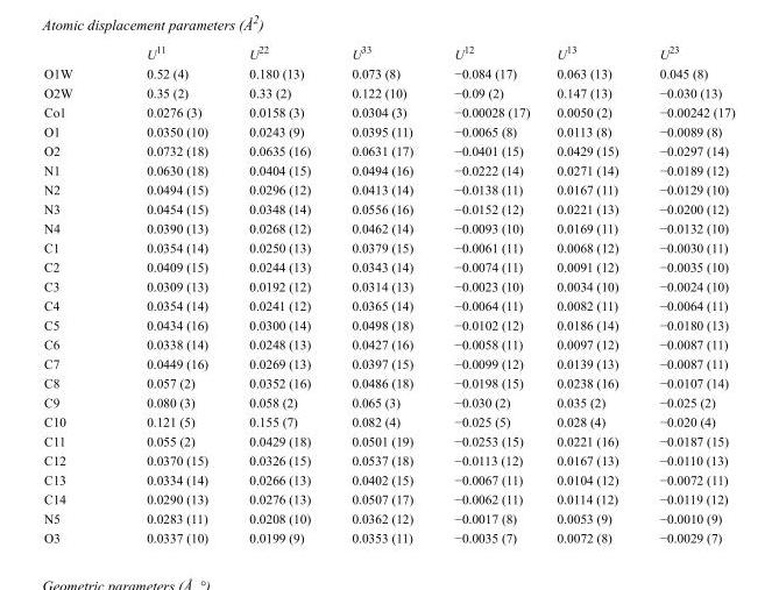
<table><thead><tr><td></td><td>U<sup>11</sup></td><td>U<sup>22</sup></td><td>U<sup>33</sup></td><td>U<sup>12</sup></td><td>U<sup>13</sup></td><td>U<sup>23</sup></td></tr></thead><tbody><tr><td>O1W</td><td>0.52 (4)</td><td>0.180 (13)</td><td>0.073 (8)</td><td>−0.084 (17)</td><td>0.063 (13)</td><td>0.045 (8)</td></tr><tr><td>O2W</td><td>0.35 (2)</td><td>0.33 (2)</td><td>0.122 (10)</td><td>−0.09 (2)</td><td>0.147 (13)</td><td>−0.030 (13)</td></tr><tr><td>Co1</td><td>0.0276 (3)</td><td>0.0158 (3)</td><td>0.0304 (3)</td><td>−0.00028 (17)</td><td>0.0050 (2)</td><td>−0.00242 (17)</td></tr><tr><td>O1</td><td>0.0350 (10)</td><td>0.0243 (9)</td><td>0.0395 (11)</td><td>−0.0065 (8)</td><td>0.0113 (8)</td><td>−0.0089 (8)</td></tr><tr><td>O2</td><td>0.0732 (18)</td><td>0.0635 (16)</td><td>0.0631 (17)</td><td>−0.0401 (15)</td><td>0.0429 (15)</td><td>−0.0297 (14)</td></tr><tr><td>N1</td><td>0.0630 (18)</td><td>0.0404 (15)</td><td>0.0494 (16)</td><td>−0.0222 (14)</td><td>0.0271 (14)</td><td>−0.0189 (12)</td></tr><tr><td>N2</td><td>0.0494 (15)</td><td>0.0296 (12)</td><td>0.0413 (14)</td><td>−0.0138 (11)</td><td>0.0167 (11)</td><td>−0.0129 (10)</td></tr><tr><td>N3</td><td>0.0454 (15)</td><td>0.0348 (14)</td><td>0.0556 (16)</td><td>−0.0152 (12)</td><td>0.0221 (13)</td><td>−0.0200 (12)</td></tr><tr><td>N4</td><td>0.0390 (13)</td><td>0.0268 (12)</td><td>0.0462 (14)</td><td>−0.0093 (10)</td><td>0.0169 (11)</td><td>−0.0132 (10)</td></tr><tr><td>C1</td><td>0.0354 (14)</td><td>0.0250 (13)</td><td>0.0379 (15)</td><td>−0.0061 (11)</td><td>0.0068 (12)</td><td>−0.0030 (11)</td></tr><tr><td>C2</td><td>0.0409 (15)</td><td>0.0244 (13)</td><td>0.0343 (14)</td><td>−0.0074 (11)</td><td>0.0091 (12)</td><td>−0.0035 (10)</td></tr><tr><td>C3</td><td>0.0309 (13)</td><td>0.0192 (12)</td><td>0.0314 (13)</td><td>−0.0023 (10)</td><td>0.0034 (10)</td><td>−0.0024 (10)</td></tr><tr><td>C4</td><td>0.0354 (14)</td><td>0.0241 (12)</td><td>0.0365 (14)</td><td>−0.0064 (11)</td><td>0.0082 (11)</td><td>−0.0064 (11)</td></tr><tr><td>C5</td><td>0.0434 (16)</td><td>0.0300 (14)</td><td>0.0498 (18)</td><td>−0.0102 (12)</td><td>0.0186 (14)</td><td>−0.0180 (13)</td></tr><tr><td>C6</td><td>0.0338 (14)</td><td>0.0248 (13)</td><td>0.0427 (16)</td><td>−0.0058 (11)</td><td>0.0097 (12)</td><td>−0.0087 (11)</td></tr><tr><td>C7</td><td>0.0449 (16)</td><td>0.0269 (13)</td><td>0.0397 (15)</td><td>−0.0099 (12)</td><td>0.0139 (13)</td><td>−0.0087 (11)</td></tr><tr><td>C8</td><td>0.057 (2)</td><td>0.0352 (16)</td><td>0.0486 (18)</td><td>−0.0198 (15)</td><td>0.0238 (16)</td><td>−0.0107 (14)</td></tr><tr><td>C9</td><td>0.080 (3)</td><td>0.058 (2)</td><td>0.065 (3)</td><td>−0.030 (2)</td><td>0.035 (2)</td><td>−0.025 (2)</td></tr><tr><td>C10</td><td>0.121 (5)</td><td>0.155 (7)</td><td>0.082 (4)</td><td>−0.025 (5)</td><td>0.028 (4)</td><td>−0.020 (4)</td></tr><tr><td>C11</td><td>0.055 (2)</td><td>0.0429 (18)</td><td>0.0501 (19)</td><td>−0.0253 (15)</td><td>0.0221 (16)</td><td>−0.0187 (15)</td></tr><tr><td>C12</td><td>0.0370 (15)</td><td>0.0326 (15)</td><td>0.0537 (18)</td><td>−0.0113 (12)</td><td>0.0167 (13)</td><td>−0.0110 (13)</td></tr><tr><td>C13</td><td>0.0334 (14)</td><td>0.0266 (13)</td><td>0.0402 (15)</td><td>−0.0067 (11)</td><td>0.0104 (12)</td><td>−0.0072 (11)</td></tr><tr><td>C14</td><td>0.0290 (13)</td><td>0.0276 (13)</td><td>0.0507 (17)</td><td>−0.0062 (11)</td><td>0.0114 (12)</td><td>−0.0119 (12)</td></tr><tr><td>N5</td><td>0.0283 (11)</td><td>0.0208 (10)</td><td>0.0362 (12)</td><td>−0.0017 (8)</td><td>0.0053 (9)</td><td>−0.0010 (9)</td></tr><tr><td>O3</td><td>0.0337 (10)</td><td>0.0199 (9)</td><td>0.0353 (11)</td><td>−0.0035 (7)</td><td>0.0072 (8)</td><td>−0.0029 (7)</td></tr></tbody></table>